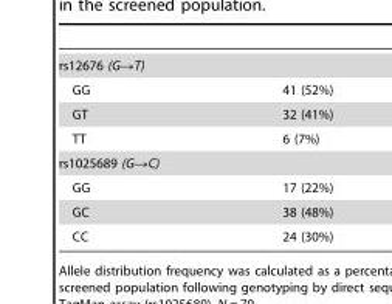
<table><tbody><tr><td colspan="2">rs12676 (G→T)</td></tr><tr><td>GG</td><td>41 (52%)</td></tr><tr><td>GT</td><td>32 (41%)</td></tr><tr><td>TT</td><td>6 (7%)</td></tr><tr><td colspan="2">rs1025689 (G→C)</td></tr><tr><td>GG</td><td>17 (22%)</td></tr><tr><td>GC</td><td>38 (48%)</td></tr><tr><td>CC</td><td>24 (30%)</td></tr></tbody></table>